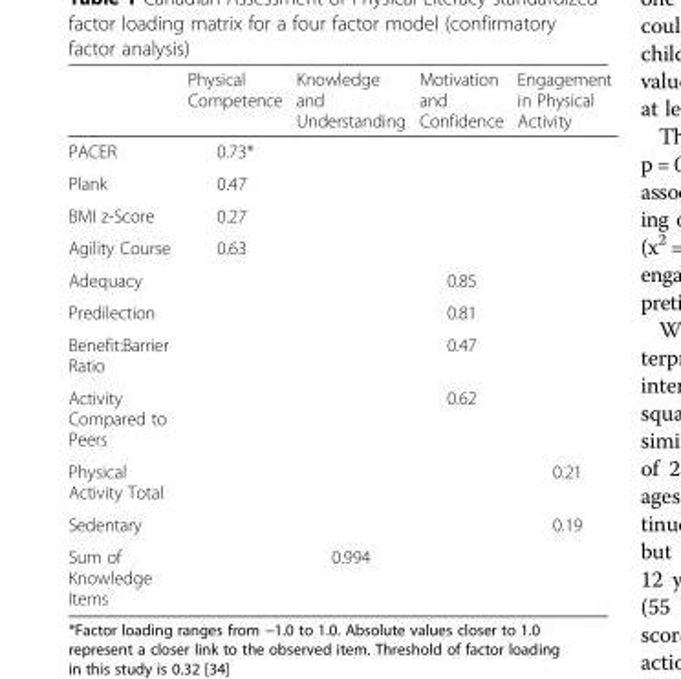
<table><thead><tr><td></td><td>Physical Competence</td><td>Knowledge and Understanding</td><td>Motivation and Confidence</td><td>Engagement in Physical Activity</td></tr></thead><tbody><tr><td>PACER</td><td>0.73*</td><td></td><td></td><td></td></tr><tr><td>Plank</td><td>0.47</td><td></td><td></td><td></td></tr><tr><td>BMI z-Score</td><td>0.27</td><td></td><td></td><td></td></tr><tr><td>Agility Course</td><td>0.63</td><td></td><td></td><td></td></tr><tr><td>Adequacy</td><td></td><td></td><td>0.85</td><td></td></tr><tr><td>Predilection</td><td></td><td></td><td>0.81</td><td></td></tr><tr><td>Benefit:Barrier Ratio</td><td></td><td></td><td>0.47</td><td></td></tr><tr><td>Activity Compared to Peers</td><td></td><td></td><td>0.62</td><td></td></tr><tr><td>Physical Activity Total</td><td></td><td></td><td></td><td>0.21</td></tr><tr><td>Sedentary</td><td></td><td></td><td></td><td>0.19</td></tr><tr><td>Sum of Knowledge Items</td><td></td><td>0.994</td><td></td><td></td></tr></tbody></table>